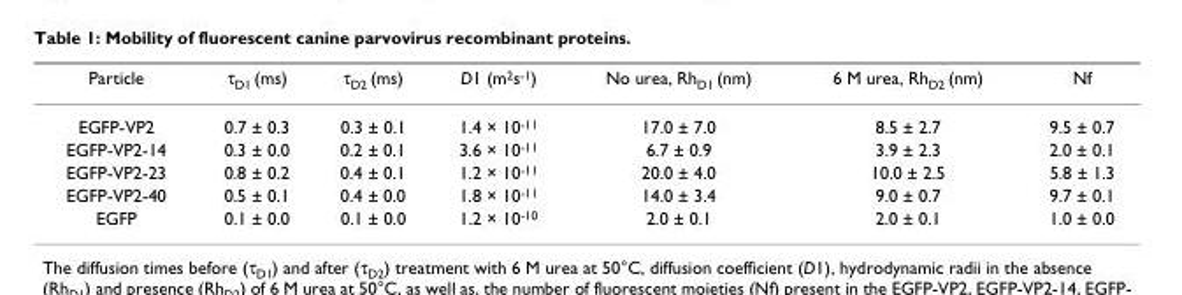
<table><thead><tr><td>Particle</td><td>τ<sub>D1</sub> (ms)</td><td>τ<sub>D2</sub> (ms)</td><td>D1 (m<sup>2</sup>s<sup>-1</sup>)</td><td>No urea, Rh<sub>D1</sub> (nm)</td><td>6 M urea, Rh<sub>D2</sub> (nm)</td><td>Nf</td></tr></thead><tbody><tr><td>EGFP-VP2</td><td>0.7 ± 0.3</td><td>0.3 ± 0.1</td><td>1.4 × 10<sup>-11</sup></td><td>17.0 ± 7.0</td><td>8.5 ± 2.7</td><td>9.5 ± 0.7</td></tr><tr><td>EGFP-VP2-14</td><td>0.3 ± 0.0</td><td>0.2 ± 0.1</td><td>3.6 × 10<sup>-11</sup></td><td>6.7 ± 0.9</td><td>3.9 ± 2.3</td><td>2.0 ± 0.1</td></tr><tr><td>EGFP-VP2-23</td><td>0.8 ± 0.2</td><td>0.4 ± 0.1</td><td>1.2 × 10<sup>-11</sup></td><td>20.0 ± 4.0</td><td>10.0 ± 2.5</td><td>5.8 ± 1.3</td></tr><tr><td>EGFP-VP2-40</td><td>0.5 ± 0.1</td><td>0.4 ± 0.0</td><td>1.8 × 10<sup>-11</sup></td><td>14.0 ± 3.4</td><td>9.0 ± 0.7</td><td>9.7 ± 0.1</td></tr><tr><td>EGFP</td><td>0.1 ± 0.0</td><td>0.1 ± 0.0</td><td>1.2 × 10<sup>-10</sup></td><td>2.0 ± 0.1</td><td>2.0 ± 0.1</td><td>1.0 ± 0.0</td></tr></tbody></table>